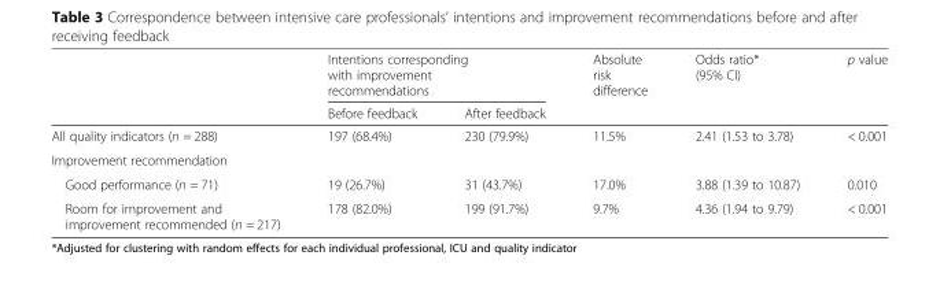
<table><thead><tr><td rowspan="2"></td><td colspan="2">Intentions corresponding with improvement recommendations</td><td rowspan="2">Absolute risk difference</td><td rowspan="2">Odds ratio* (95% CI)</td><td rowspan="2">p value</td></tr><tr><td>Before feedback</td><td>After feedback</td></tr></thead><tbody><tr><td>All quality indicators (n = 288)</td><td>197 (68.4%)</td><td>230 (79.9%)</td><td>11.5%</td><td>2.41 (1.53 to 3.78)</td><td>&lt; 0.001</td></tr><tr><td colspan="6">Improvement recommendation</td></tr><tr><td>Good performance (n = 71)</td><td>19 (26.7%)</td><td>31 (43.7%)</td><td>17.0%</td><td>3.88 (1.39 to 10.87)</td><td>0.010</td></tr><tr><td>Room for improvement and improvement recommended (n = 217)</td><td>178 (82.0%)</td><td>199 (91.7%)</td><td>9.7%</td><td>4.36 (1.94 to 9.79)</td><td>&lt; 0.001</td></tr></tbody></table>